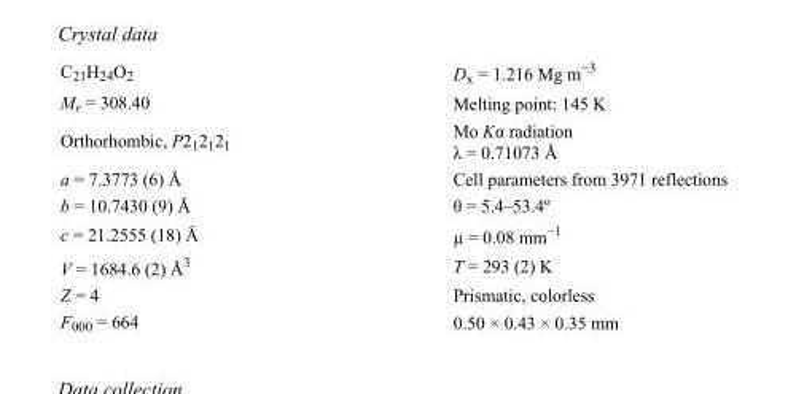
<table><tbody><tr><td>C<sub>21</sub>H<sub>24</sub>O<sub>2</sub></td><td>D<sub>x</sub> = 1.216 Mg m<sup>−3</sup></td></tr><tr><td>M<sub>r</sub> = 308.40</td><td>Melting point: 145 K</td></tr><tr><td>Orthorhombic, P2<sub>1</sub>2<sub>1</sub>2<sub>1</sub></td><td>Mo Kα radiation λ = 0.71073 Å</td></tr><tr><td>a = 7.3773 (6) Å</td><td>Cell parameters from 3971 reflections</td></tr><tr><td>b = 10.7430 (9) Å</td><td>θ = 5.4–53.4º</td></tr><tr><td>c = 21.2555 (18) Å</td><td>µ = 0.08 mm<sup>−1</sup></td></tr><tr><td>V = 1684.6 (2) Å<sup>3</sup></td><td>T = 293 (2) K</td></tr><tr><td>Z = 4</td><td>Prismatic, colorless</td></tr><tr><td>F<sub>000</sub> = 664</td><td>0.50 × 0.43 × 0.35 mm</td></tr></tbody></table>